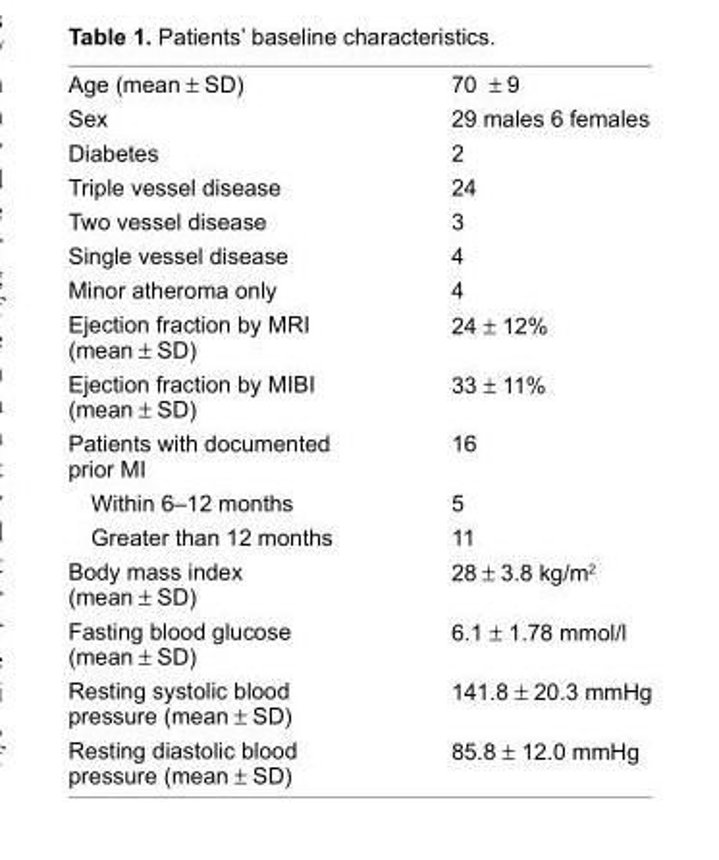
<table><tbody><tr><td>Age (mean ± sD)</td><td>70 ± 9</td></tr><tr><td>sex</td><td>29 males 6 females</td></tr><tr><td>Diabetes</td><td>2</td></tr><tr><td>Triple vessel disease</td><td>24</td></tr><tr><td>Two vessel disease</td><td>3</td></tr><tr><td>single vessel disease</td><td>4</td></tr><tr><td>Minor atheroma only</td><td>4</td></tr><tr><td>ejection fraction by Mri (mean ± sD)</td><td>24 ± 12%</td></tr><tr><td>ejection fraction by MiBi (mean ± sD)</td><td>33 ± 11%</td></tr><tr><td>Patients with documented prior Mi</td><td>16</td></tr><tr><td>Within 6–12 months</td><td>5</td></tr><tr><td>greater than 12 months</td><td>11</td></tr><tr><td>Body mass index (mean ± sD)</td><td>28 ± 3.8 kg/m<sup>2</sup></td></tr><tr><td>Fasting blood glucose (mean ± sD)</td><td>6.1 ± 1.78 mmol/l</td></tr><tr><td>resting systolic blood pressure (mean ± sD)</td><td>141.8 ± 20.3 mmhg</td></tr><tr><td>resting diastolic blood pressure (mean ± sD)</td><td>85.8 ± 12.0 mmhg</td></tr></tbody></table>